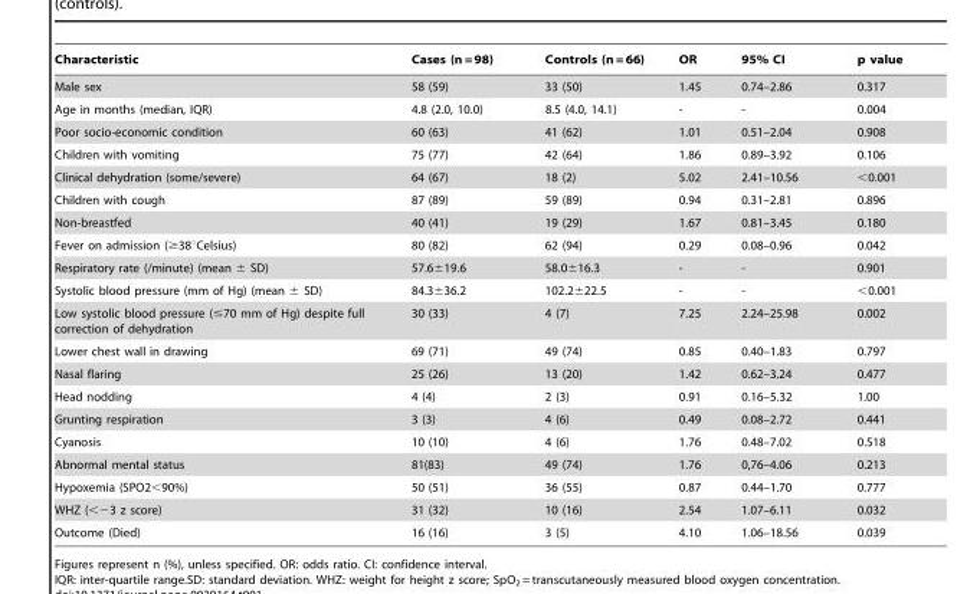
<table><thead><tr><td>Characteristic</td><td>Cases (n = 98)</td><td>Controls (n = 66)</td><td>OR</td><td>95% CI</td><td>p value</td></tr></thead><tbody><tr><td>Male sex</td><td>58 (59)</td><td>33 (50)</td><td>1.45</td><td>0.74–2.86</td><td>0.317</td></tr><tr><td>Age in months (median, IQR)</td><td>4.8 (2.0, 10.0)</td><td>8.5 (4.0, 14.1)</td><td>-</td><td>-</td><td>0.004</td></tr><tr><td>Poor socio-economic condition</td><td>60 (63)</td><td>41 (62)</td><td>1.01</td><td>0.51–2.04</td><td>0.908</td></tr><tr><td>Children with vomiting</td><td>75 (77)</td><td>42 (64)</td><td>1.86</td><td>0.89–3.92</td><td>0.106</td></tr><tr><td>Clinical dehydration (some/severe)</td><td>64 (67)</td><td>18 (2)</td><td>5.02</td><td>2.41–10.56</td><td>&lt;0.001</td></tr><tr><td>Children with cough</td><td>87 (89)</td><td>59 (89)</td><td>0.94</td><td>0.31–2.81</td><td>0.896</td></tr><tr><td>Non-breastfed</td><td>40 (41)</td><td>19 (29)</td><td>1.67</td><td>0.81–3.45</td><td>0.180</td></tr><tr><td>Fever on admission (≥38°Celsius)</td><td>80 (82)</td><td>62 (94)</td><td>0.29</td><td>0.08–0.96</td><td>0.042</td></tr><tr><td>Respiratory rate (/minute) (mean ± SD)</td><td>57.6±19.6</td><td>58.0±16.3</td><td>-</td><td>-</td><td>0.901</td></tr><tr><td>Systolic blood pressure (mm of Hg) (mean ± SD)</td><td>84.3±36.2</td><td>102.2±22.5</td><td>-</td><td>-</td><td>&lt;0.001</td></tr><tr><td>Low systolic blood pressure (≤70 mm of Hg) despite full correction of dehydration</td><td>30 (33)</td><td>4 (7)</td><td>7.25</td><td>2.24–25.98</td><td>0.002</td></tr><tr><td>Lower chest wall in drawing</td><td>69 (71)</td><td>49 (74)</td><td>0.85</td><td>0.40–1.83</td><td>0.797</td></tr><tr><td>Nasal flaring</td><td>25 (26)</td><td>13 (20)</td><td>1.42</td><td>0.62–3.24</td><td>0.477</td></tr><tr><td>Head nodding</td><td>4 (4)</td><td>2 (3)</td><td>0.91</td><td>0.16–5.32</td><td>1.00</td></tr><tr><td>Grunting respiration</td><td>3 (3)</td><td>4 (6)</td><td>0.49</td><td>0.08–2.72</td><td>0.441</td></tr><tr><td>Cyanosis</td><td>10 (10)</td><td>4 (6)</td><td>1.76</td><td>0.48–7.02</td><td>0.518</td></tr><tr><td>Abnormal mental status</td><td>81(83)</td><td>49 (74)</td><td>1.76</td><td>0,76–4.06</td><td>0.213</td></tr><tr><td>Hypoxemia (SPO2&lt;90%)</td><td>50 (51)</td><td>36 (55)</td><td>0.87</td><td>0.44–1.70</td><td>0.777</td></tr><tr><td>WHZ (&lt;−3 z score)</td><td>31 (32)</td><td>10 (16)</td><td>2.54</td><td>1.07–6.11</td><td>0.032</td></tr><tr><td>Outcome (Died)</td><td>16 (16)</td><td>3 (5)</td><td>4.10</td><td>1.06–18.56</td><td>0.039</td></tr></tbody></table>